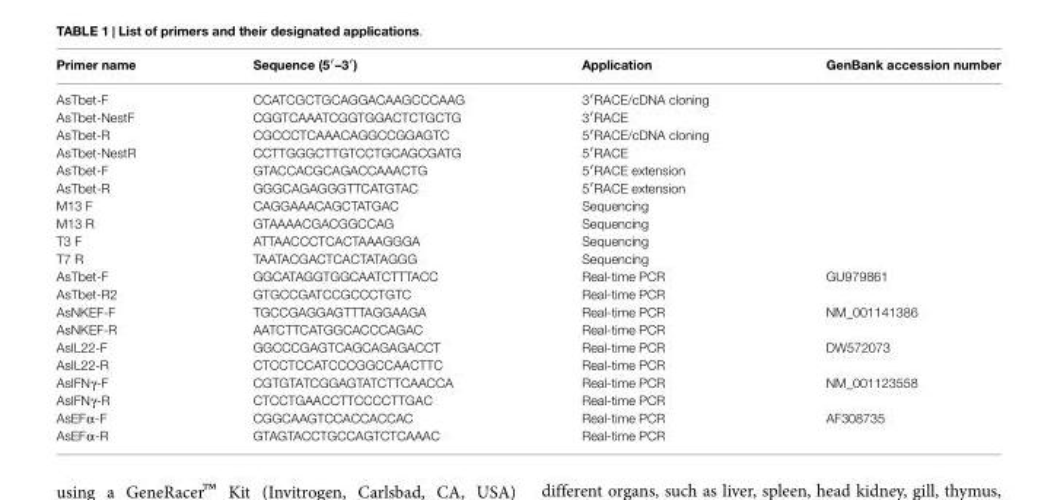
<table><thead><tr><td>Primer name</td><td>Sequence (5′–3′)</td><td>Application</td><td>GenBank accession number</td></tr></thead><tbody><tr><td>AsTbet-F</td><td>CCATCGCTGCAGGACAAGCCCAAG</td><td>3′RACE/cDNA cloning</td><td></td></tr><tr><td>AsTbet-NestF</td><td>CGGTCAAATCGGTGGACTCTGCTG</td><td>3′RACE</td><td></td></tr><tr><td>AsTbet-R</td><td>CGCCCTCAAACAGGCCGGAGTC</td><td>5′RACE/cDNA cloning</td><td></td></tr><tr><td>AsTbet-NestR</td><td>CCTTGGGCTTGTCCTGCAGCGATG</td><td>5′RACE</td><td></td></tr><tr><td>AsTbet-F</td><td>GTACCACGCAGACCAAACTG</td><td>5′RACE extension</td><td></td></tr><tr><td>AsTbet-R</td><td>GGGCAGAGGGTTCATGTAC</td><td>5′RACE extension</td><td></td></tr><tr><td>M13 F</td><td>CAGGAAACAGCTATGAC</td><td>Sequencing</td><td></td></tr><tr><td>M13 R</td><td>GTAAAACGACGGCCAG</td><td>Sequencing</td><td></td></tr><tr><td>T3 F</td><td>ATTAACCCTCACTAAAGGGA</td><td>Sequencing</td><td></td></tr><tr><td>T7 R</td><td>TAATACGACTCACTATAGGG</td><td>Sequencing</td><td></td></tr><tr><td>AsTbet-F</td><td>GGCATAGGTGGCAATCTTTACC</td><td>Real-time PCR</td><td>GU979861</td></tr><tr><td>AsTbet-R2</td><td>GTGCCGATCCGCCCTGTC</td><td>Real-time PCR</td><td></td></tr><tr><td>AsNKEF-F</td><td>TGCCGAGGAGTTTAGGAAGA</td><td>Real-time PCR</td><td>NM_001141386</td></tr><tr><td>AsNKEF-R</td><td>AATCTTCATGGCACCCAGAC</td><td>Real-time PCR</td><td></td></tr><tr><td>AsIL22-F</td><td>GGCCCGAGTCAGCAGAGACCT</td><td>Real-time PCR</td><td>DW572073</td></tr><tr><td>AsIL22-R</td><td>CTCCTCCATCCCGGCCAACTTC</td><td>Real-time PCR</td><td></td></tr><tr><td>AsIFNγ-F</td><td>CGTGTATCGGAGTATCTTCAACCA</td><td>Real-time PCR</td><td>NM_001123558</td></tr><tr><td>AsIFNγ-R</td><td>CTCCTGAACCTTCCCCTTGAC</td><td>Real-time PCR</td><td></td></tr><tr><td>AsEFα-F</td><td>CGGCAAGTCCACCACCAC</td><td>Real-time PCR</td><td>AF308735</td></tr><tr><td>AsEFα-R</td><td>GTAGTACCTGCCAGTCTCAAAC</td><td>Real-time PCR</td><td></td></tr></tbody></table>